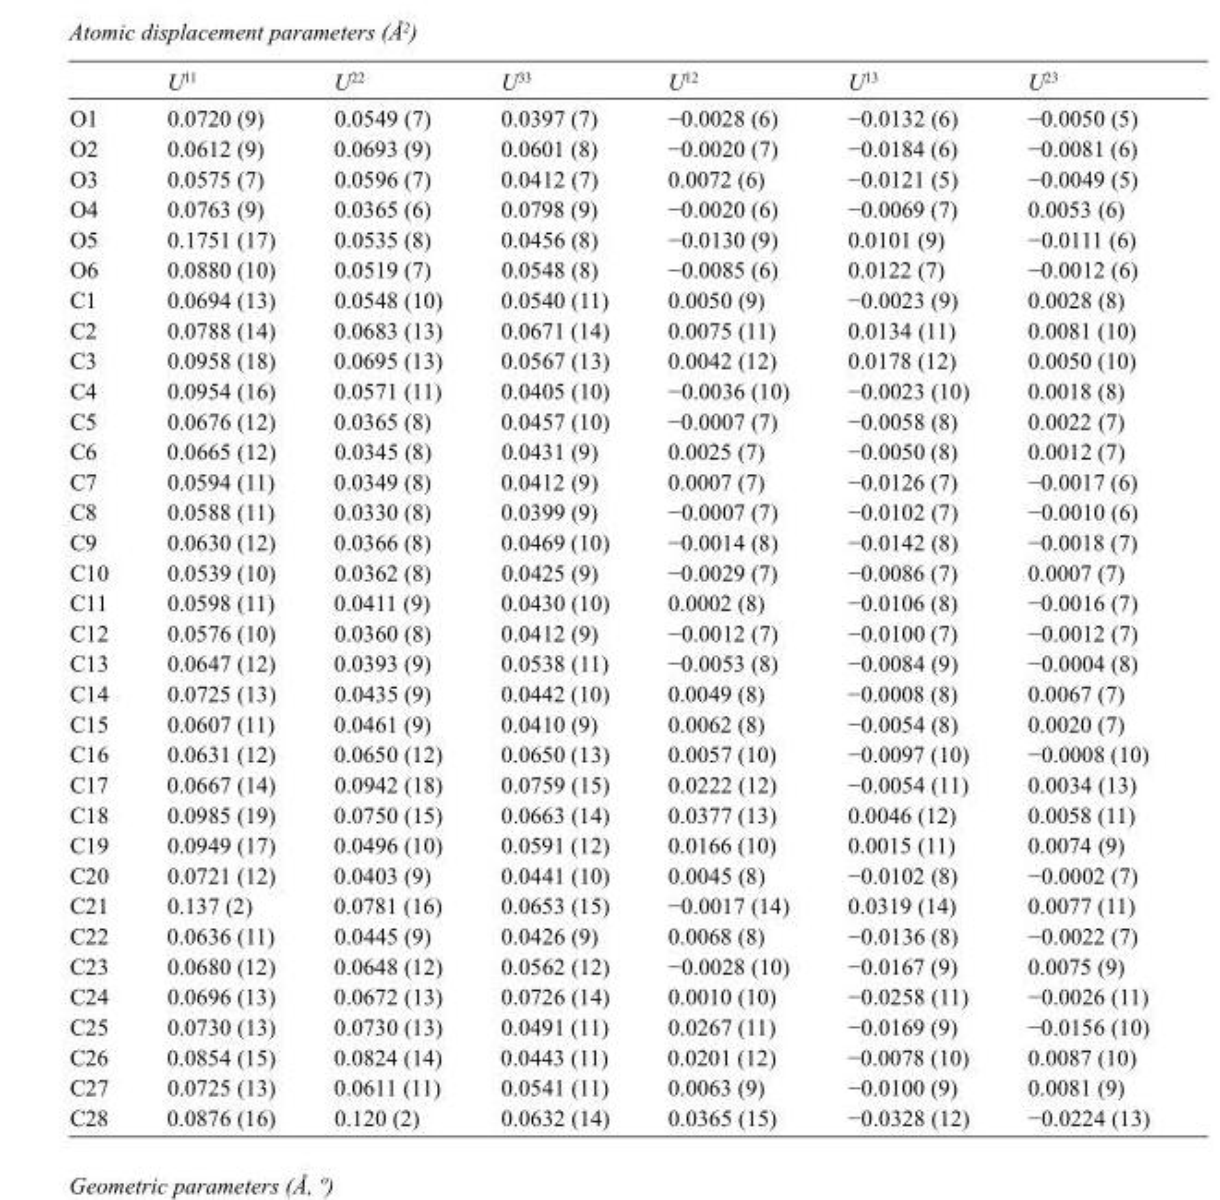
<table><thead><tr><td></td><td>U<sup>11</sup></td><td>U<sup>22</sup></td><td>U<sup>33</sup></td><td>U<sup>12</sup></td><td>U<sup>13</sup></td><td>U<sup>23</sup></td></tr></thead><tbody><tr><td>O1</td><td>0.0720 (9)</td><td>0.0549 (7)</td><td>0.0397 (7)</td><td>−0.0028 (6)</td><td>−0.0132 (6)</td><td>−0.0050 (5)</td></tr><tr><td>O2</td><td>0.0612 (9)</td><td>0.0693 (9)</td><td>0.0601 (8)</td><td>−0.0020 (7)</td><td>−0.0184 (6)</td><td>−0.0081 (6)</td></tr><tr><td>O3</td><td>0.0575 (7)</td><td>0.0596 (7)</td><td>0.0412 (7)</td><td>0.0072 (6)</td><td>−0.0121 (5)</td><td>−0.0049 (5)</td></tr><tr><td>O4</td><td>0.0763 (9)</td><td>0.0365 (6)</td><td>0.0798 (9)</td><td>−0.0020 (6)</td><td>−0.0069 (7)</td><td>0.0053 (6)</td></tr><tr><td>O5</td><td>0.1751 (17)</td><td>0.0535 (8)</td><td>0.0456 (8)</td><td>−0.0130 (9)</td><td>0.0101 (9)</td><td>−0.0111 (6)</td></tr><tr><td>O6</td><td>0.0880 (10)</td><td>0.0519 (7)</td><td>0.0548 (8)</td><td>−0.0085 (6)</td><td>0.0122 (7)</td><td>−0.0012 (6)</td></tr><tr><td>C1</td><td>0.0694 (13)</td><td>0.0548 (10)</td><td>0.0540 (11)</td><td>0.0050 (9)</td><td>−0.0023 (9)</td><td>0.0028 (8)</td></tr><tr><td>C2</td><td>0.0788 (14)</td><td>0.0683 (13)</td><td>0.0671 (14)</td><td>0.0075 (11)</td><td>0.0134 (11)</td><td>0.0081 (10)</td></tr><tr><td>C3</td><td>0.0958 (18)</td><td>0.0695 (13)</td><td>0.0567 (13)</td><td>0.0042 (12)</td><td>0.0178 (12)</td><td>0.0050 (10)</td></tr><tr><td>C4</td><td>0.0954 (16)</td><td>0.0571 (11)</td><td>0.0405 (10)</td><td>−0.0036 (10)</td><td>−0.0023 (10)</td><td>0.0018 (8)</td></tr><tr><td>C5</td><td>0.0676 (12)</td><td>0.0365 (8)</td><td>0.0457 (10)</td><td>−0.0007 (7)</td><td>−0.0058 (8)</td><td>0.0022 (7)</td></tr><tr><td>C6</td><td>0.0665 (12)</td><td>0.0345 (8)</td><td>0.0431 (9)</td><td>0.0025 (7)</td><td>−0.0050 (8)</td><td>0.0012 (7)</td></tr><tr><td>C7</td><td>0.0594 (11)</td><td>0.0349 (8)</td><td>0.0412 (9)</td><td>0.0007 (7)</td><td>−0.0126 (7)</td><td>−0.0017 (6)</td></tr><tr><td>C8</td><td>0.0588 (11)</td><td>0.0330 (8)</td><td>0.0399 (9)</td><td>−0.0007 (7)</td><td>−0.0102 (7)</td><td>−0.0010 (6)</td></tr><tr><td>C9</td><td>0.0630 (12)</td><td>0.0366 (8)</td><td>0.0469 (10)</td><td>−0.0014 (8)</td><td>−0.0142 (8)</td><td>−0.0018 (7)</td></tr><tr><td>C10</td><td>0.0539 (10)</td><td>0.0362 (8)</td><td>0.0425 (9)</td><td>−0.0029 (7)</td><td>−0.0086 (7)</td><td>0.0007 (7)</td></tr><tr><td>C11</td><td>0.0598 (11)</td><td>0.0411 (9)</td><td>0.0430 (10)</td><td>0.0002 (8)</td><td>−0.0106 (8)</td><td>−0.0016 (7)</td></tr><tr><td>C12</td><td>0.0576 (10)</td><td>0.0360 (8)</td><td>0.0412 (9)</td><td>−0.0012 (7)</td><td>−0.0100 (7)</td><td>−0.0012 (7)</td></tr><tr><td>C13</td><td>0.0647 (12)</td><td>0.0393 (9)</td><td>0.0538 (11)</td><td>−0.0053 (8)</td><td>−0.0084 (9)</td><td>−0.0004 (8)</td></tr><tr><td>C14</td><td>0.0725 (13)</td><td>0.0435 (9)</td><td>0.0442 (10)</td><td>0.0049 (8)</td><td>−0.0008 (8)</td><td>0.0067 (7)</td></tr><tr><td>C15</td><td>0.0607 (11)</td><td>0.0461 (9)</td><td>0.0410 (9)</td><td>0.0062 (8)</td><td>−0.0054 (8)</td><td>0.0020 (7)</td></tr><tr><td>C16</td><td>0.0631 (12)</td><td>0.0650 (12)</td><td>0.0650 (13)</td><td>0.0057 (10)</td><td>−0.0097 (10)</td><td>−0.0008 (10)</td></tr><tr><td>C17</td><td>0.0667 (14)</td><td>0.0942 (18)</td><td>0.0759 (15)</td><td>0.0222 (12)</td><td>−0.0054 (11)</td><td>0.0034 (13)</td></tr><tr><td>C18</td><td>0.0985 (19)</td><td>0.0750 (15)</td><td>0.0663 (14)</td><td>0.0377 (13)</td><td>0.0046 (12)</td><td>0.0058 (11)</td></tr><tr><td>C19</td><td>0.0949 (17)</td><td>0.0496 (10)</td><td>0.0591 (12)</td><td>0.0166 (10)</td><td>0.0015 (11)</td><td>0.0074 (9)</td></tr><tr><td>C20</td><td>0.0721 (12)</td><td>0.0403 (9)</td><td>0.0441 (10)</td><td>0.0045 (8)</td><td>−0.0102 (8)</td><td>−0.0002 (7)</td></tr><tr><td>C21</td><td>0.137 (2)</td><td>0.0781 (16)</td><td>0.0653 (15)</td><td>−0.0017 (14)</td><td>0.0319 (14)</td><td>0.0077 (11)</td></tr><tr><td>C22</td><td>0.0636 (11)</td><td>0.0445 (9)</td><td>0.0426 (9)</td><td>0.0068 (8)</td><td>−0.0136 (8)</td><td>−0.0022 (7)</td></tr><tr><td>C23</td><td>0.0680 (12)</td><td>0.0648 (12)</td><td>0.0562 (12)</td><td>−0.0028 (10)</td><td>−0.0167 (9)</td><td>0.0075 (9)</td></tr><tr><td>C24</td><td>0.0696 (13)</td><td>0.0672 (13)</td><td>0.0726 (14)</td><td>0.0010 (10)</td><td>−0.0258 (11)</td><td>−0.0026 (11)</td></tr><tr><td>C25</td><td>0.0730 (13)</td><td>0.0730 (13)</td><td>0.0491 (11)</td><td>0.0267 (11)</td><td>−0.0169 (9)</td><td>−0.0156 (10)</td></tr><tr><td>C26</td><td>0.0854 (15)</td><td>0.0824 (14)</td><td>0.0443 (11)</td><td>0.0201 (12)</td><td>−0.0078 (10)</td><td>0.0087 (10)</td></tr><tr><td>C27</td><td>0.0725 (13)</td><td>0.0611 (11)</td><td>0.0541 (11)</td><td>0.0063 (9)</td><td>−0.0100 (9)</td><td>0.0081 (9)</td></tr><tr><td>C28</td><td>0.0876 (16)</td><td>0.120 (2)</td><td>0.0632 (14)</td><td>0.0365 (15)</td><td>−0.0328 (12)</td><td>−0.0224 (13)</td></tr></tbody></table>